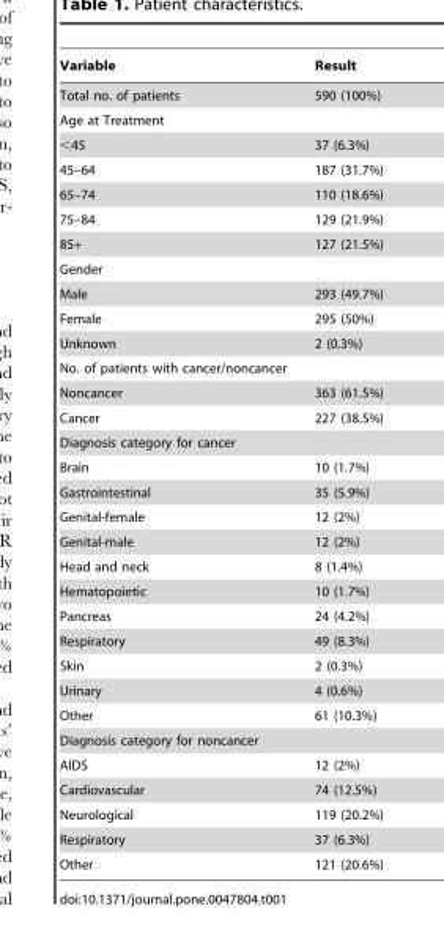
<table><thead><tr><td>Variable</td><td>Result</td></tr></thead><tbody><tr><td>Total no. of patients</td><td>590 (100%)</td></tr><tr><td colspan="2">Age at Treatment</td></tr><tr><td>&lt;45</td><td>37 (6.3%)</td></tr><tr><td>45–64</td><td>187 (31.7%)</td></tr><tr><td>65–74</td><td>110 (18.6%)</td></tr><tr><td>75–84</td><td>129 (21.9%)</td></tr><tr><td>85+</td><td>127 (21.5%)</td></tr><tr><td colspan="2">Gender</td></tr><tr><td>Male</td><td>293 (49.7%)</td></tr><tr><td>Female</td><td>295 (50%)</td></tr><tr><td>Unknown</td><td>2 (0.3%)</td></tr><tr><td colspan="2">No. of patients with cancer/noncancer</td></tr><tr><td>Noncancer</td><td>363 (61.5%)</td></tr><tr><td>Cancer</td><td>227 (38.5%)</td></tr><tr><td colspan="2">Diagnosis category for cancer</td></tr><tr><td>Brain</td><td>10 (1.7%)</td></tr><tr><td>Gastrointestinal</td><td>35 (5.9%)</td></tr><tr><td>Genital-female</td><td>12 (2%)</td></tr><tr><td>Genital-male</td><td>12 (2%)</td></tr><tr><td>Head and neck</td><td>8 (1.4%)</td></tr><tr><td>Hematopoietic</td><td>10 (1.7%)</td></tr><tr><td>Pancreas</td><td>24 (4.2%)</td></tr><tr><td>Respiratory</td><td>49 (8.3%)</td></tr><tr><td>Skin</td><td>2 (0.3%)</td></tr><tr><td>Urinary</td><td>4 (0.6%)</td></tr><tr><td>Other</td><td>61 (10.3%)</td></tr><tr><td colspan="2">Diagnosis category for noncancer</td></tr><tr><td>AIDS</td><td>12 (2%)</td></tr><tr><td>Cardiovascular</td><td>74 (12.5%)</td></tr><tr><td>Neurological</td><td>119 (20.2%)</td></tr><tr><td>Respiratory</td><td>37 (6.3%)</td></tr><tr><td>Other</td><td>121 (20.6%)</td></tr></tbody></table>